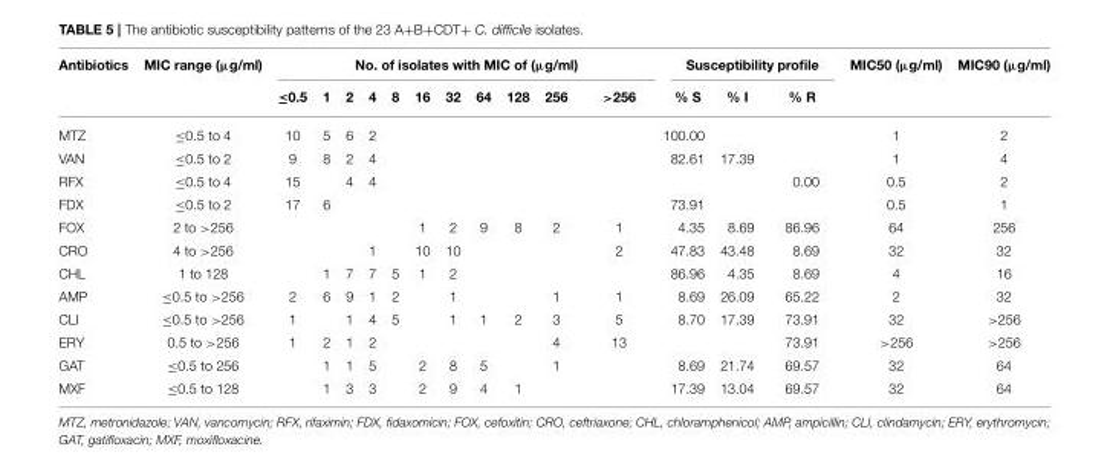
<table><thead><tr><td rowspan="2">Antibiotics</td><td rowspan="2">MIC range (µg/ml)</td><td colspan="11">No. of isolates with MIC of (µg/ml)</td><td colspan="3">Susceptibility profile</td><td rowspan="2">MIC50 (µg/ml)</td><td rowspan="2">MIC90 (µg/ml)</td></tr><tr><td>≤0.5</td><td>1</td><td>2</td><td>4</td><td>8</td><td>16</td><td>32</td><td>64</td><td>128</td><td>256</td><td>&gt;256</td><td>% S</td><td>% I</td><td>% R</td></tr></thead><tbody><tr><td>MTZ</td><td>≤0.5 to 4</td><td>10</td><td>5</td><td>6</td><td>2</td><td></td><td></td><td></td><td></td><td></td><td></td><td></td><td>100.00</td><td></td><td></td><td>1</td><td>2</td></tr><tr><td>VAN</td><td>≤0.5 to 2</td><td>9</td><td>8</td><td>2</td><td>4</td><td></td><td></td><td></td><td></td><td></td><td></td><td></td><td>82.61</td><td>17.39</td><td></td><td>1</td><td>4</td></tr><tr><td>RFX</td><td>≤0.5 to 4</td><td>15</td><td></td><td>4</td><td>4</td><td></td><td></td><td></td><td></td><td></td><td></td><td></td><td></td><td></td><td>0.00</td><td>0.5</td><td>2</td></tr><tr><td>FDX</td><td>≤0.5 to 2</td><td>17</td><td>6</td><td></td><td></td><td></td><td></td><td></td><td></td><td></td><td></td><td></td><td>73.91</td><td></td><td></td><td>0.5</td><td>1</td></tr><tr><td>FOX</td><td>2 to &gt;256</td><td></td><td></td><td></td><td></td><td></td><td>1</td><td>2</td><td>9</td><td>8</td><td>2</td><td>1</td><td>4.35</td><td>8.69</td><td>86.96</td><td>64</td><td>256</td></tr><tr><td>CRO</td><td>4 to &gt;256</td><td></td><td></td><td></td><td>1</td><td></td><td>10</td><td>10</td><td></td><td></td><td></td><td>2</td><td>47.83</td><td>43.48</td><td>8.69</td><td>32</td><td>32</td></tr><tr><td>CHL</td><td>1 to 128</td><td></td><td>1</td><td>7</td><td>7</td><td>5</td><td>1</td><td>2</td><td></td><td></td><td></td><td></td><td>86.96</td><td>4.35</td><td>8.69</td><td>4</td><td>16</td></tr><tr><td>AMP</td><td>≤0.5 to &gt;256</td><td>2</td><td>6</td><td>9</td><td>1</td><td>2</td><td></td><td>1</td><td></td><td></td><td>1</td><td>1</td><td>8.69</td><td>26.09</td><td>65.22</td><td>2</td><td>32</td></tr><tr><td>CLI</td><td>≤0.5 to &gt;256</td><td>1</td><td></td><td>1</td><td>4</td><td>5</td><td></td><td>1</td><td>1</td><td>2</td><td>3</td><td>5</td><td>8.70</td><td>17.39</td><td>73.91</td><td>32</td><td>&gt;256</td></tr><tr><td>ERY</td><td>0.5 to &gt;256</td><td>1</td><td>2</td><td>1</td><td>2</td><td></td><td></td><td></td><td></td><td></td><td>4</td><td>13</td><td></td><td></td><td>73.91</td><td>&gt;256</td><td>&gt;256</td></tr><tr><td>GAT</td><td>≤0.5 to 256</td><td></td><td>1</td><td>1</td><td>5</td><td></td><td>2</td><td>8</td><td>5</td><td></td><td>1</td><td></td><td>8.69</td><td>21.74</td><td>69.57</td><td>32</td><td>64</td></tr><tr><td>MXF</td><td>≤0.5 to 128</td><td></td><td>1</td><td>3</td><td>3</td><td></td><td>2</td><td>9</td><td>4</td><td>1</td><td></td><td></td><td>17.39</td><td>13.04</td><td>69.57</td><td>32</td><td>64</td></tr></tbody></table>